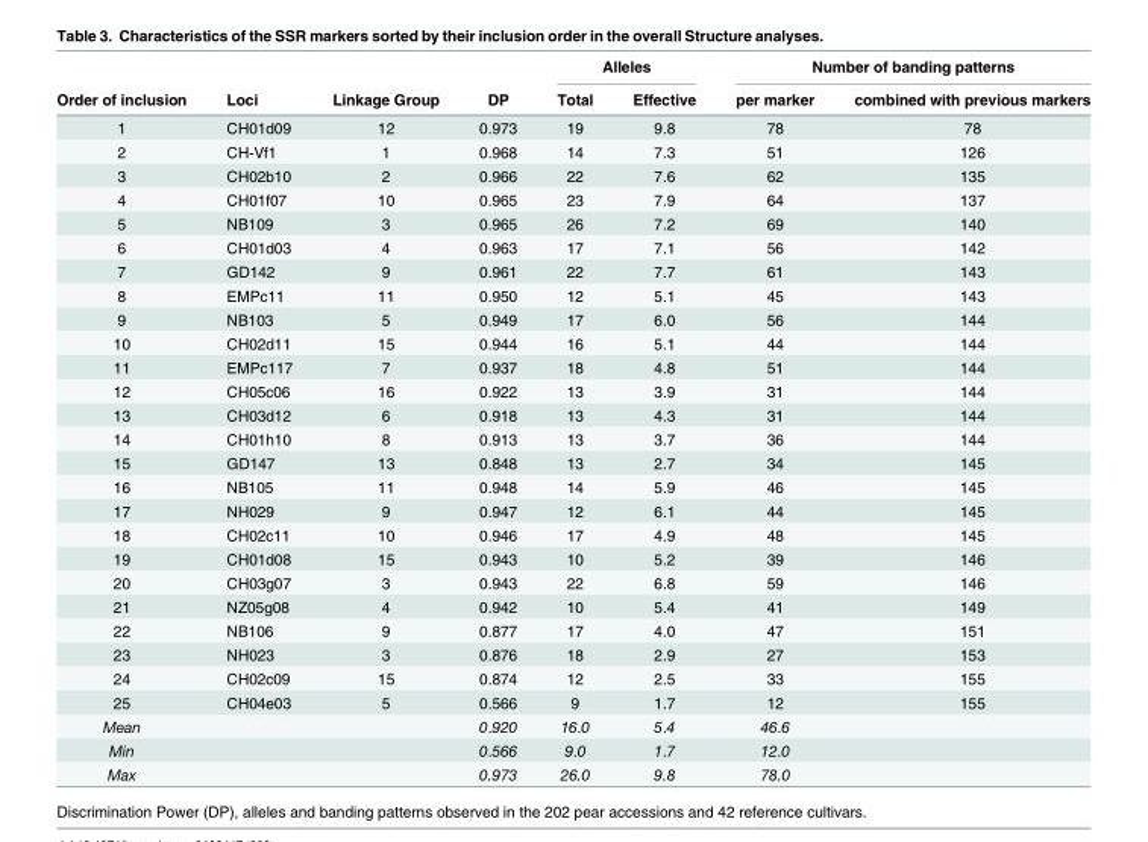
<table><thead><tr><td rowspan="2">Order of inclusion</td><td rowspan="2">Loci</td><td rowspan="2">Linkage Group</td><td rowspan="2">DP</td><td colspan="2">Alleles</td><td colspan="2">Number of banding patterns</td></tr><tr><td>Total</td><td>Effective</td><td>per marker</td><td>combined with previous markers</td></tr></thead><tbody><tr><td>1</td><td>CH01d09</td><td>12</td><td>0.973</td><td>19</td><td>9.8</td><td>78</td><td>78</td></tr><tr><td>2</td><td>CH-Vf1</td><td>1</td><td>0.968</td><td>14</td><td>7.3</td><td>51</td><td>126</td></tr><tr><td>3</td><td>CH02b10</td><td>2</td><td>0.966</td><td>22</td><td>7.6</td><td>62</td><td>135</td></tr><tr><td>4</td><td>CH01f07</td><td>10</td><td>0.965</td><td>23</td><td>7.9</td><td>64</td><td>137</td></tr><tr><td>5</td><td>NB109</td><td>3</td><td>0.965</td><td>26</td><td>7.2</td><td>69</td><td>140</td></tr><tr><td>6</td><td>CH01d03</td><td>4</td><td>0.963</td><td>17</td><td>7.1</td><td>56</td><td>142</td></tr><tr><td>7</td><td>GD142</td><td>9</td><td>0.961</td><td>22</td><td>7.7</td><td>61</td><td>143</td></tr><tr><td>8</td><td>EMPc11</td><td>11</td><td>0.950</td><td>12</td><td>5.1</td><td>45</td><td>143</td></tr><tr><td>9</td><td>NB103</td><td>5</td><td>0.949</td><td>17</td><td>6.0</td><td>56</td><td>144</td></tr><tr><td>10</td><td>CH02d11</td><td>15</td><td>0.944</td><td>16</td><td>5.1</td><td>44</td><td>144</td></tr><tr><td>11</td><td>EMPc117</td><td>7</td><td>0.937</td><td>18</td><td>4.8</td><td>51</td><td>144</td></tr><tr><td>12</td><td>CH05c06</td><td>16</td><td>0.922</td><td>13</td><td>3.9</td><td>31</td><td>144</td></tr><tr><td>13</td><td>CH03d12</td><td>6</td><td>0.918</td><td>13</td><td>4.3</td><td>31</td><td>144</td></tr><tr><td>14</td><td>CH01h10</td><td>8</td><td>0.913</td><td>13</td><td>3.7</td><td>36</td><td>144</td></tr><tr><td>15</td><td>GD147</td><td>13</td><td>0.848</td><td>13</td><td>2.7</td><td>34</td><td>145</td></tr><tr><td>16</td><td>NB105</td><td>11</td><td>0.948</td><td>14</td><td>5.9</td><td>46</td><td>145</td></tr><tr><td>17</td><td>NH029</td><td>9</td><td>0.947</td><td>12</td><td>6.1</td><td>44</td><td>145</td></tr><tr><td>18</td><td>CH02c11</td><td>10</td><td>0.946</td><td>17</td><td>4.9</td><td>48</td><td>145</td></tr><tr><td>19</td><td>CH01d08</td><td>15</td><td>0.943</td><td>10</td><td>5.2</td><td>39</td><td>146</td></tr><tr><td>20</td><td>CH03g07</td><td>3</td><td>0.943</td><td>22</td><td>6.8</td><td>59</td><td>146</td></tr><tr><td>21</td><td>NZ05g08</td><td>4</td><td>0.942</td><td>10</td><td>5.4</td><td>41</td><td>149</td></tr><tr><td>22</td><td>NB106</td><td>9</td><td>0.877</td><td>17</td><td>4.0</td><td>47</td><td>151</td></tr><tr><td>23</td><td>NH023</td><td>3</td><td>0.876</td><td>18</td><td>2.9</td><td>27</td><td>153</td></tr><tr><td>24</td><td>CH02c09</td><td>15</td><td>0.874</td><td>12</td><td>2.5</td><td>33</td><td>155</td></tr><tr><td>25</td><td>CH04e03</td><td>5</td><td>0.566</td><td>9</td><td>1.7</td><td>12</td><td>155</td></tr><tr><td>Mean</td><td></td><td></td><td>0.920</td><td>16.0</td><td>5.4</td><td>46.6</td><td></td></tr><tr><td>Min</td><td></td><td></td><td>0.566</td><td>9.0</td><td>1.7</td><td>12.0</td><td></td></tr><tr><td>Max</td><td></td><td></td><td>0.973</td><td>26.0</td><td>9.8</td><td>78.0</td><td></td></tr></tbody></table>